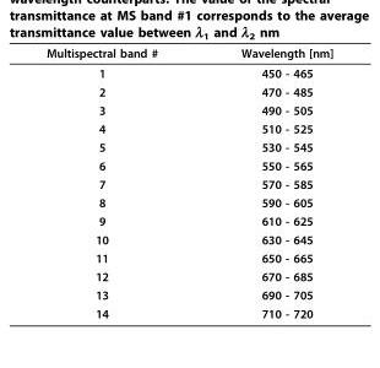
<table><thead><tr><td>Multispectral band #</td><td>Wavelength [nm]</td></tr></thead><tbody><tr><td>1</td><td>450 - 465</td></tr><tr><td>2</td><td>470 - 485</td></tr><tr><td>3</td><td>490 - 505</td></tr><tr><td>4</td><td>510 - 525</td></tr><tr><td>5</td><td>530 - 545</td></tr><tr><td>6</td><td>550 - 565</td></tr><tr><td>7</td><td>570 - 585</td></tr><tr><td>8</td><td>590 - 605</td></tr><tr><td>9</td><td>610 - 625</td></tr><tr><td>10</td><td>630 - 645</td></tr><tr><td>11</td><td>650 - 665</td></tr><tr><td>12</td><td>670 - 685</td></tr><tr><td>13</td><td>690 - 705</td></tr><tr><td>14</td><td>710 - 720</td></tr></tbody></table>